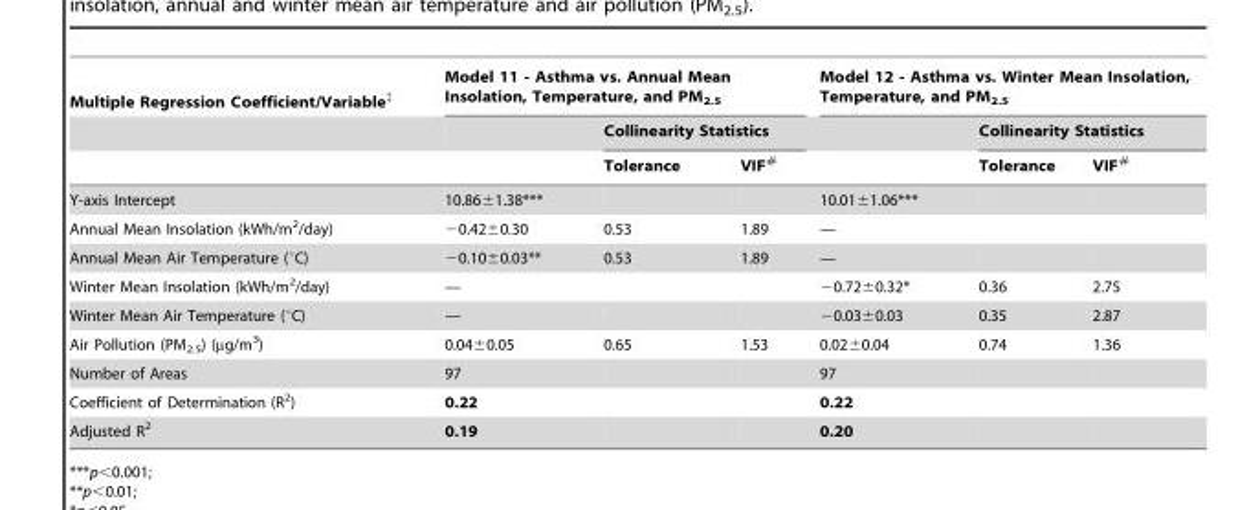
<table><thead><tr><td rowspan="3">Multiple Regression Coefficient/Variable‡</td><td colspan="3">Model 11 - Asthma vs. Annual Mean Insolation, Temperature, and PM<sub>2.5</sub></td><td colspan="3">Model 12 - Asthma vs. Winter Mean Insolation, Temperature, and PM<sub>2.5</sub></td></tr><tr><td rowspan="2"></td><td colspan="2">Collinearity Statistics</td><td rowspan="2"></td><td colspan="2">Collinearity Statistics</td></tr><tr><td>Tolerance</td><td>VIF#</td><td>Tolerance</td><td>VIF#</td></tr></thead><tbody><tr><td>Y-axis Intercept</td><td>10.86±1.38***</td><td></td><td></td><td>10.01±1.06***</td><td></td><td></td></tr><tr><td>Annual Mean Insolation (kWh/m<sup>2</sup>/day)</td><td>−0.42±0.30</td><td>0.53</td><td>1.89</td><td>—</td><td></td><td></td></tr><tr><td>Annual Mean Air Temperature (°C)</td><td>−0.10±0.03**</td><td>0.53</td><td>1.89</td><td>—</td><td></td><td></td></tr><tr><td>Winter Mean Insolation (kWh/m<sup>2</sup>/day)</td><td>—</td><td></td><td></td><td>−0.72±0.32*</td><td>0.36</td><td>2.75</td></tr><tr><td>Winter Mean Air Temperature (°C)</td><td>—</td><td></td><td></td><td>−0.03±0.03</td><td>0.35</td><td>2.87</td></tr><tr><td>Air Pollution (PM<sub>2.5</sub>) (µg/m<sup>3</sup>)</td><td>0.04±0.05</td><td>0.65</td><td>1.53</td><td>0.02±0.04</td><td>0.74</td><td>1.36</td></tr><tr><td>Number of Areas</td><td>97</td><td></td><td></td><td>97</td><td></td><td></td></tr><tr><td>Coefficient of Determination (R<sup>2</sup>)</td><td>0.22</td><td></td><td></td><td>0.22</td><td></td><td></td></tr><tr><td>Adjusted R<sup>2</sup></td><td>0.19</td><td></td><td></td><td>0.20</td><td></td><td></td></tr></tbody></table>